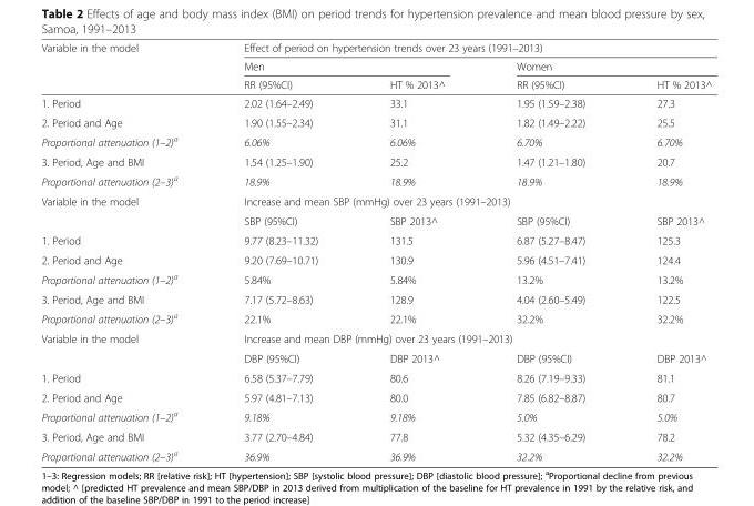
<table><thead><tr><td rowspan="3">Variable in the model</td><td colspan="4">Effect of period on hypertension trends over 23 years (1991–2013)</td></tr><tr><td colspan="2">Men</td><td colspan="2">Women</td></tr><tr><td>RR (95%CI)</td><td>HT % 2013^</td><td>RR (95%CI)</td><td>HT % 2013^</td></tr></thead><tbody><tr><td>1. Period</td><td>2.02 (1.64–2.49)</td><td>33.1</td><td>1.95 (1.59–2.38)</td><td>27.3</td></tr><tr><td>2. Period and Age</td><td>1.90 (1.55–2.34)</td><td>31.1</td><td>1.82 (1.49–2.22)</td><td>25.5</td></tr><tr><td>Proportional attenuation (1–2)<sup>a</sup></td><td>6.06%</td><td>6.06%</td><td>6.70%</td><td>6.70%</td></tr><tr><td>3. Period, Age and BMI</td><td>1.54 (1.25–1.90)</td><td>25.2</td><td>1.47 (1.21–1.80)</td><td>20.7</td></tr><tr><td>Proportional attenuation (2–3)<sup>a</sup></td><td>18.9%</td><td>18.9%</td><td>18.9%</td><td>18.9%</td></tr><tr><td rowspan="2">Variable in the model</td><td colspan="4">Increase and mean SBP (mmHg) over 23 years (1991–2013)</td></tr><tr><td>SBP (95%CI)</td><td>SBP 2013^</td><td>SBP (95%CI)</td><td>SBP 2013^</td></tr><tr><td>1. Period</td><td>9.77 (8.23–11.32)</td><td>131.5</td><td>6.87 (5.27–8.47)</td><td>125.3</td></tr><tr><td>2. Period and Age</td><td>9.20 (7.69–10.71)</td><td>130.9</td><td>5.96 (4.51–7.41)</td><td>124.4</td></tr><tr><td>Proportional attenuation (1–2)<sup>a</sup></td><td>5.84%</td><td>5.84%</td><td>13.2%</td><td>13.2%</td></tr><tr><td>3. Period, Age and BMI</td><td>7.17 (5.72–8.63)</td><td>128.9</td><td>4.04 (2.60–5.49)</td><td>122.5</td></tr><tr><td>Proportional attenuation (2–3)<sup>a</sup></td><td>22.1%</td><td>22.1%</td><td>32.2%</td><td>32.2%</td></tr><tr><td rowspan="2">Variable in the model</td><td colspan="4">Increase and mean DBP (mmHg) over 23 years (1991–2013)</td></tr><tr><td>DBP (95%CI)</td><td>DBP 2013^</td><td>DBP (95%CI)</td><td>DBP 2013^</td></tr><tr><td>1. Period</td><td>6.58 (5.37–7.79)</td><td>80.6</td><td>8.26 (7.19–9.33)</td><td>81.1</td></tr><tr><td>2. Period and Age</td><td>5.97 (4.81–7.13)</td><td>80.0</td><td>7.85 (6.82–8.87)</td><td>80.7</td></tr><tr><td>Proportional attenuation (1–2)<sup>a</sup></td><td>9.18%</td><td>9.18%</td><td>5.0%</td><td>5.0%</td></tr><tr><td>3. Period, Age and BMI</td><td>3.77 (2.70–4.84)</td><td>77.8</td><td>5.32 (4.35–6.29)</td><td>78.2</td></tr><tr><td>Proportional attenuation (2–3)<sup>a</sup></td><td>36.9%</td><td>36.9%</td><td>32.2%</td><td>32.2%</td></tr></tbody></table>